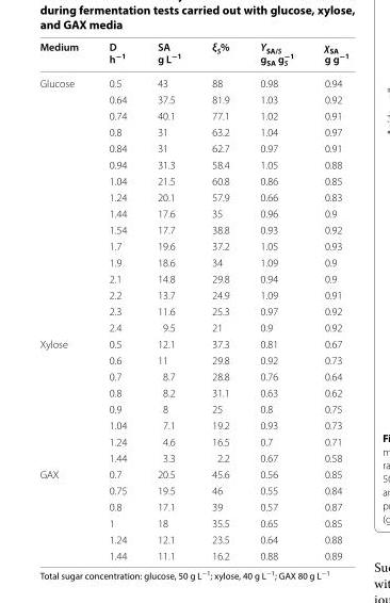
<table><thead><tr><td>Medium</td><td>D h<sup>−1</sup></td><td>SA g L<sup>−1</sup></td><td>ξ<sub>S</sub>%</td><td>Y<sub>SA/S</sub> g<sub>SA</sub> g<sub>S</sub> <sup>−1</sup></td><td>χ<sub>SA</sub> g g<sup>−1</sup></td></tr></thead><tbody><tr><td rowspan="16">Glucose</td><td>0.5</td><td>43</td><td>88</td><td>0.98</td><td>0.94</td></tr><tr><td>0.64</td><td>37.5</td><td>81.9</td><td>1.03</td><td>0.92</td></tr><tr><td>0.74</td><td>40.1</td><td>77.1</td><td>1.02</td><td>0.91</td></tr><tr><td>0.8</td><td>31</td><td>63.2</td><td>1.04</td><td>0.97</td></tr><tr><td>0.84</td><td>31</td><td>62.7</td><td>0.97</td><td>0.91</td></tr><tr><td>0.94</td><td>31.3</td><td>58.4</td><td>1.05</td><td>0.88</td></tr><tr><td>1.04</td><td>21.5</td><td>60.8</td><td>0.86</td><td>0.85</td></tr><tr><td>1.24</td><td>20.1</td><td>57.9</td><td>0.66</td><td>0.83</td></tr><tr><td>1.44</td><td>17.6</td><td>35</td><td>0.96</td><td>0.9</td></tr><tr><td>1.54</td><td>17.7</td><td>38.8</td><td>0.93</td><td>0.92</td></tr><tr><td>1.7</td><td>19.6</td><td>37.2</td><td>1.05</td><td>0.93</td></tr><tr><td>1.9</td><td>18.6</td><td>34</td><td>1.09</td><td>0.9</td></tr><tr><td>2.1</td><td>14.8</td><td>29.8</td><td>0.94</td><td>0.9</td></tr><tr><td>2.2</td><td>13.7</td><td>24.9</td><td>1.09</td><td>0.91</td></tr><tr><td>2.3</td><td>11.6</td><td>25.3</td><td>0.97</td><td>0.92</td></tr><tr><td>2.4</td><td>9.5</td><td>21</td><td>0.9</td><td>0.92</td></tr><tr><td rowspan="8">Xylose</td><td>0.5</td><td>12.1</td><td>37.3</td><td>0.81</td><td>0.67</td></tr><tr><td>0.6</td><td>11</td><td>29.8</td><td>0.92</td><td>0.73</td></tr><tr><td>0.7</td><td>8.7</td><td>28.8</td><td>0.76</td><td>0.64</td></tr><tr><td>0.8</td><td>8.2</td><td>31.1</td><td>0.63</td><td>0.62</td></tr><tr><td>0.9</td><td>8</td><td>25</td><td>0.8</td><td>0.75</td></tr><tr><td>1.04</td><td>7.1</td><td>19.2</td><td>0.93</td><td>0.73</td></tr><tr><td>1.24</td><td>4.6</td><td>16.5</td><td>0.7</td><td>0.71</td></tr><tr><td>1.44</td><td>3.3</td><td>2.2</td><td>0.67</td><td>0.58</td></tr><tr><td rowspan="6">GAX</td><td>0.7</td><td>20.5</td><td>45.6</td><td>0.56</td><td>0.85</td></tr><tr><td>0.75</td><td>19.5</td><td>46</td><td>0.55</td><td>0.84</td></tr><tr><td>0.8</td><td>17.1</td><td>39</td><td>0.57</td><td>0.87</td></tr><tr><td>1</td><td>18</td><td>35.5</td><td>0.65</td><td>0.85</td></tr><tr><td>1.24</td><td>12.1</td><td>23.5</td><td>0.64</td><td>0.88</td></tr><tr><td>1.44</td><td>11.1</td><td>16.2</td><td>0.88</td><td>0.89</td></tr></tbody></table>